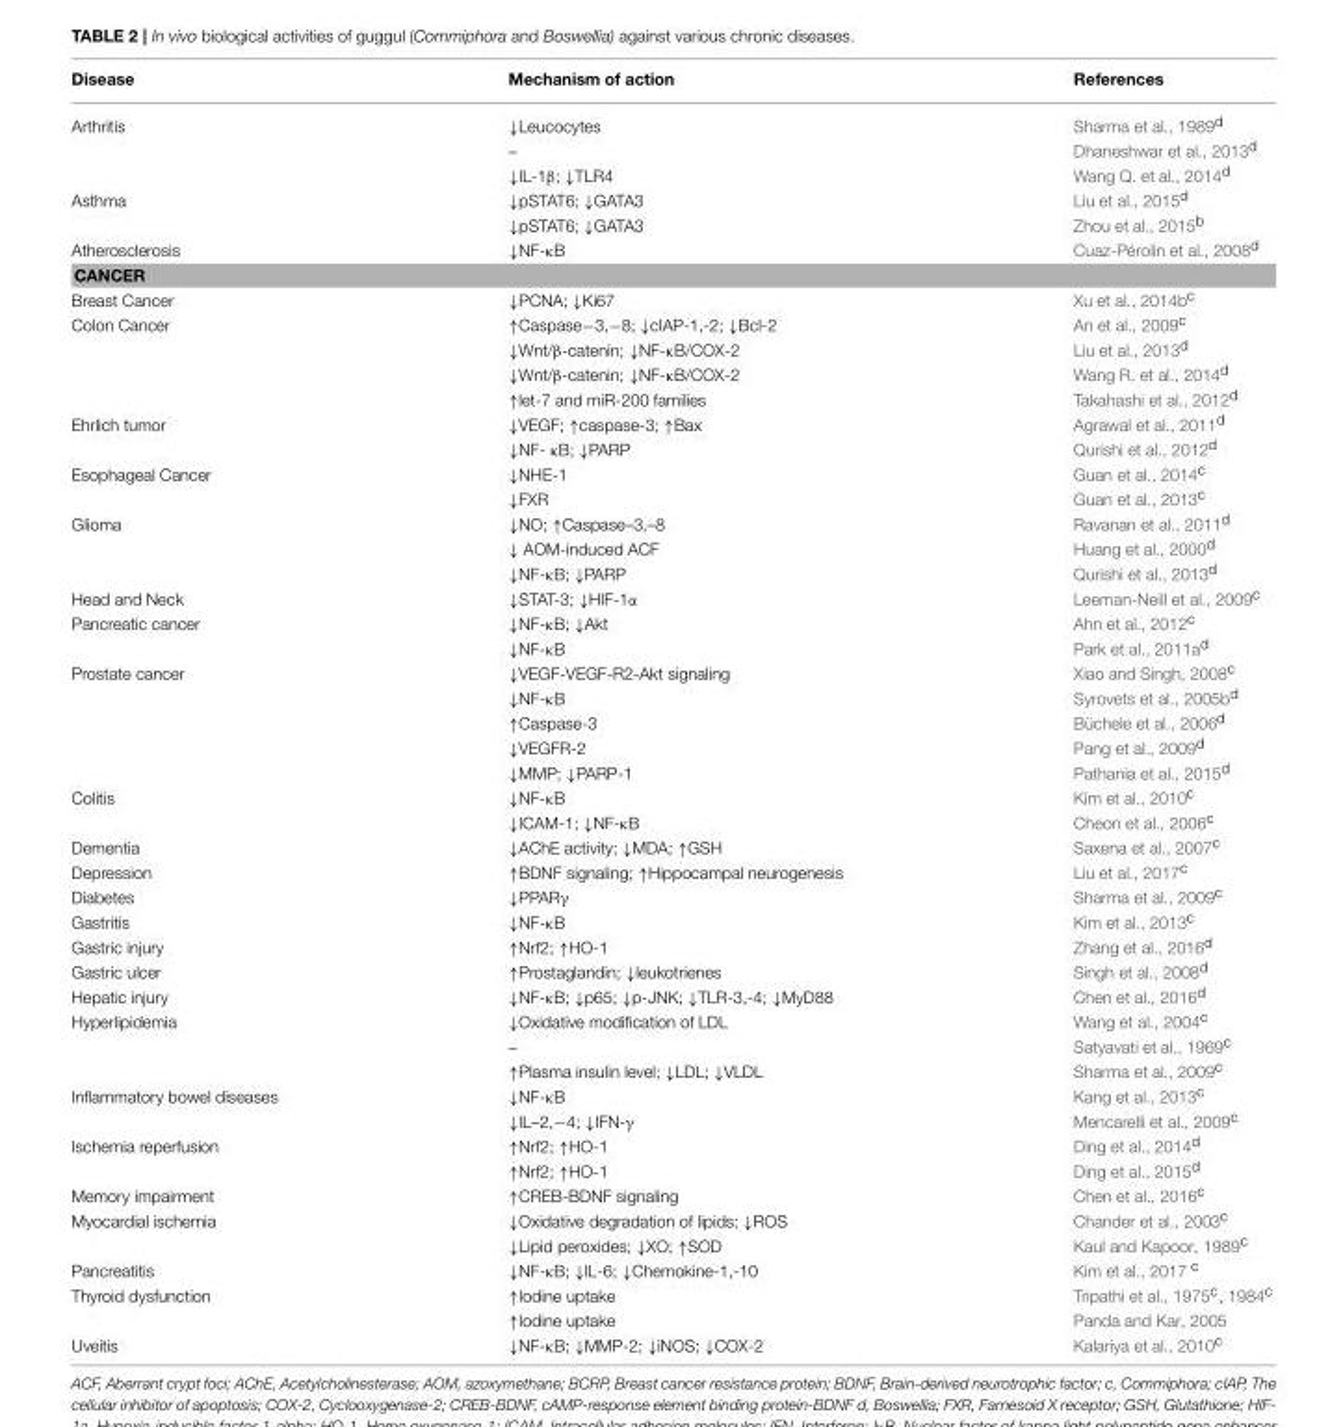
<table><thead><tr><td>Disease</td><td>Mechanism of action</td><td>References</td></tr></thead><tbody><tr><td rowspan="3">Arthritis</td><td>↓Leucocytes</td><td>Sharma et al., 1989<sup>d</sup></td></tr><tr><td>–</td><td>Dhaneshwar et al., 2013<sup>d</sup></td></tr><tr><td>↓IL-1β; ↓TLR4</td><td>Wang Q. et al., 2014<sup>d</sup></td></tr><tr><td rowspan="2">Asthma</td><td>↓pSTAT6; ↓GATA3</td><td>Liu et al., 2015<sup>d</sup></td></tr><tr><td>↓pSTAT6; ↓GATA3</td><td>Zhou et al., 2015<sup>b</sup></td></tr><tr><td>Atherosclerosis</td><td>↓NF-κB</td><td>Cuaz-Pérolin et al., 2008<sup>d</sup></td></tr><tr><td colspan="3">CANCER</td></tr><tr><td>Breast Cancer</td><td>↓PCNA; ↓Ki67</td><td>Xu et al., 2014b<sup>c</sup></td></tr><tr><td rowspan="4">Colon Cancer</td><td>↑Caspase−3,−8; ↓cIAP-1,-2; ↓Bcl-2</td><td>An et al., 2009<sup>c</sup></td></tr><tr><td>↓Wnt/β-catenin; ↓NF-κB/COX-2</td><td>Liu et al., 2013<sup>d</sup></td></tr><tr><td>↓Wnt/β-catenin; ↓NF-κB/COX-2</td><td>Wang R. et al., 2014<sup>d</sup></td></tr><tr><td>↑let-7 and miR-200 families</td><td>Takahashi et al., 2012<sup>d</sup></td></tr><tr><td rowspan="2">Ehrlich tumor</td><td>↓VEGF; ↑caspase-3; ↑Bax</td><td>Agrawal et al., 2011<sup>d</sup></td></tr><tr><td>↓NF- κB; ↓PARP</td><td>Qurishi et al., 2012<sup>d</sup></td></tr><tr><td rowspan="2">Esophageal Cancer</td><td>↓NHE-1</td><td>Guan et al., 2014<sup>c</sup></td></tr><tr><td>↓FXR</td><td>Guan et al., 2013<sup>c</sup></td></tr><tr><td rowspan="3">Glioma</td><td>↓NO; ↑Caspase–3,–8</td><td>Ravanan et al., 2011<sup>d</sup></td></tr><tr><td>↓ AOM-induced ACF</td><td>Huang et al., 2000<sup>d</sup></td></tr><tr><td>↓NF-κB; ↓PARP</td><td>Qurishi et al., 2013<sup>d</sup></td></tr><tr><td>Head and Neck</td><td>↓STAT-3; ↓HIF-1α</td><td>Leeman-Neill et al., 2009<sup>c</sup></td></tr><tr><td rowspan="2">Pancreatic cancer</td><td>↓NF-κB; ↓Akt</td><td>Ahn et al., 2012<sup>c</sup></td></tr><tr><td>↓NF-κB</td><td>Park et al., 2011a<sup>d</sup></td></tr><tr><td rowspan="5">Prostate cancer</td><td>↓VEGF-VEGF-R2-Akt signaling</td><td>Xiao and Singh, 2008<sup>c</sup></td></tr><tr><td>↓NF-κB</td><td>Syrovets et al., 2005b<sup>d</sup></td></tr><tr><td>↑Caspase-3</td><td>Büchele et al., 2006<sup>d</sup></td></tr><tr><td>↓VEGFR-2</td><td>Pang et al., 2009<sup>d</sup></td></tr><tr><td>↓MMP; ↓PARP-1</td><td>Pathania et al., 2015<sup>d</sup></td></tr><tr><td rowspan="2">Colitis</td><td>↓NF-κB</td><td>Kim et al., 2010<sup>c</sup></td></tr><tr><td>↓ICAM-1; ↓NF-κB</td><td>Cheon et al., 2006<sup>c</sup></td></tr><tr><td>Dementia</td><td>↓AChE activity; ↓MDA; ↑GSH</td><td>Saxena et al., 2007<sup>c</sup></td></tr><tr><td>Depression</td><td>↑BDNF signaling; ↑Hippocampal neurogenesis</td><td>Liu et al., 2017<sup>c</sup></td></tr><tr><td>Diabetes</td><td>↓PPARγ</td><td>Sharma et al., 2009<sup>c</sup></td></tr><tr><td>Gastritis</td><td>↓NF-κB</td><td>Kim et al., 2013<sup>c</sup></td></tr><tr><td>Gastric injury</td><td>↑Nrf2; ↑HO-1</td><td>Zhang et al., 2016<sup>d</sup></td></tr><tr><td>Gastric ulcer</td><td>↑Prostaglandin; ↓leukotrienes</td><td>Singh et al., 2008<sup>d</sup></td></tr><tr><td>Hepatic injury</td><td>↓NF-κB; ↓p65; ↓p-JNK; ↓TLR-3,-4; ↓MyD88</td><td>Chen et al., 2016<sup>d</sup></td></tr><tr><td rowspan="3">Hyperlipidemia</td><td>↓Oxidative modification of LDL</td><td>Wang et al., 2004<sup>c</sup></td></tr><tr><td>–</td><td>Satyavati et al., 1969<sup>c</sup></td></tr><tr><td>↑Plasma insulin level; ↓LDL; ↓VLDL</td><td>Sharma et al., 2009<sup>c</sup></td></tr><tr><td rowspan="2">Inflammatory bowel diseases</td><td>↓NF-κB</td><td>Kang et al., 2013<sup>c</sup></td></tr><tr><td>↓IL–2,−4; ↓IFN-γ</td><td>Mencarelli et al., 2009<sup>c</sup></td></tr><tr><td rowspan="2">Ischemia reperfusion</td><td>↑Nrf2; ↑HO-1</td><td>Ding et al., 2014<sup>d</sup></td></tr><tr><td>↑Nrf2; ↑HO-1</td><td>Ding et al., 2015<sup>d</sup></td></tr><tr><td>Memory impairment</td><td>↑CREB-BDNF signaling</td><td>Chen et al., 2016<sup>c</sup></td></tr><tr><td rowspan="2">Myocardial ischemia</td><td>↓Oxidative degradation of lipids; ↓ROS</td><td>Chander et al., 2003<sup>c</sup></td></tr><tr><td>↓Lipid peroxides; ↓XO; ↑SOD</td><td>Kaul and Kapoor, 1989<sup>c</sup></td></tr><tr><td>Pancreatitis</td><td>↓NF-κB; ↓IL-6; ↓Chemokine-1,-10</td><td>Kim et al., 2017 <sup>c</sup></td></tr><tr><td rowspan="2">Thyroid dysfunction</td><td>↑Iodine uptake</td><td>Tripathi et al., 1975<sup>c</sup>, 1984<sup>c</sup></td></tr><tr><td>↑Iodine uptake</td><td>Panda and Kar, 2005</td></tr><tr><td>Uveitis</td><td>↓NF-κB; ↓MMP-2; ↓iNOS; ↓COX-2</td><td>Kalariya et al., 2010<sup>c</sup></td></tr></tbody></table>